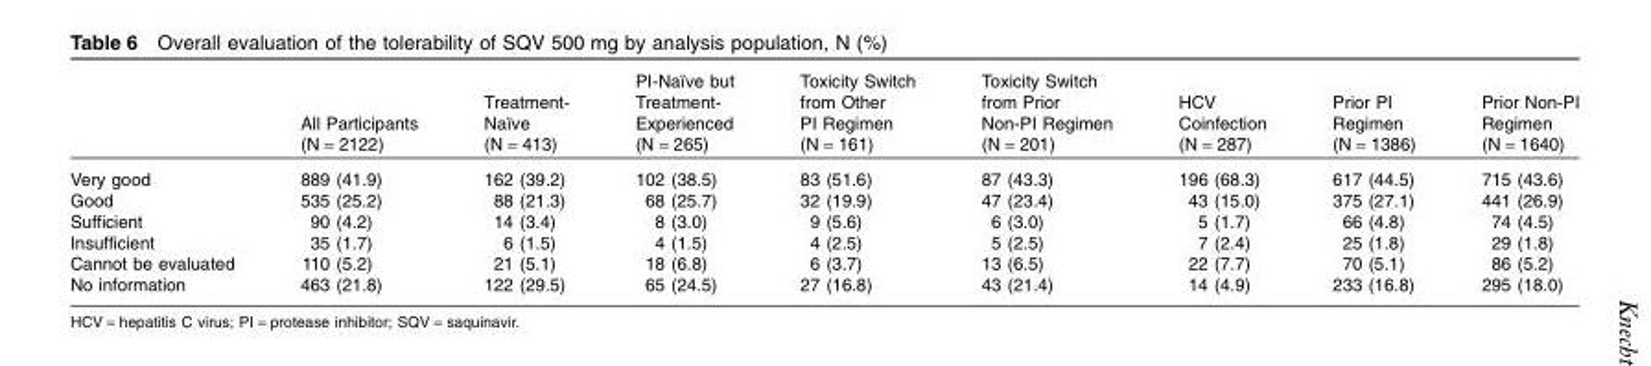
<table><thead><tr><td></td><td>All Participants (N = 2122)</td><td>Treatment- Naïve (N = 413)</td><td>PI-Naïve but Treatment- Experienced (N = 265)</td><td>Toxicity Switch from Other PI Regimen (N = 161)</td><td>Toxicity Switch from Prior Non-PI Regimen (N = 201)</td><td>HCV Coinfection (N = 287)</td><td>Prior PI Regimen (N = 1386)</td><td>Prior Non-PI Regimen (N = 1640)</td></tr></thead><tbody><tr><td>Very good</td><td>889 (41.9)</td><td>162 (39.2)</td><td>102 (38.5)</td><td>83 (51.6)</td><td>87 (43.3)</td><td>196 (68.3)</td><td>617 (44.5)</td><td>715 (43.6)</td></tr><tr><td>Good</td><td>535 (25.2)</td><td>88 (21.3)</td><td>68 (25.7)</td><td>32 (19.9)</td><td>47 (23.4)</td><td>43 (15.0)</td><td>375 (27.1)</td><td>441 (26.9)</td></tr><tr><td>Sufficient</td><td>90 (4.2)</td><td>14 (3.4)</td><td>8 (3.0)</td><td>9 (5.6)</td><td>6 (3.0)</td><td>5 (1.7)</td><td>66 (4.8)</td><td>74 (4.5)</td></tr><tr><td>Insufficient</td><td>35 (1.7)</td><td>6 (1.5)</td><td>4 (1.5)</td><td>4 (2.5)</td><td>5 (2.5)</td><td>7 (2.4)</td><td>25 (1.8)</td><td>29 (1.8)</td></tr><tr><td>Cannot be evaluated</td><td>110 (5.2)</td><td>21 (5.1)</td><td>18 (6.8)</td><td>6 (3.7)</td><td>13 (6.5)</td><td>22 (7.7)</td><td>70 (5.1)</td><td>86 (5.2)</td></tr><tr><td>No information</td><td>463 (21.8)</td><td>122 (29.5)</td><td>65 (24.5)</td><td>27 (16.8)</td><td>43 (21.4)</td><td>14 (4.9)</td><td>233 (16.8)</td><td>295 (18.0)</td></tr></tbody></table>